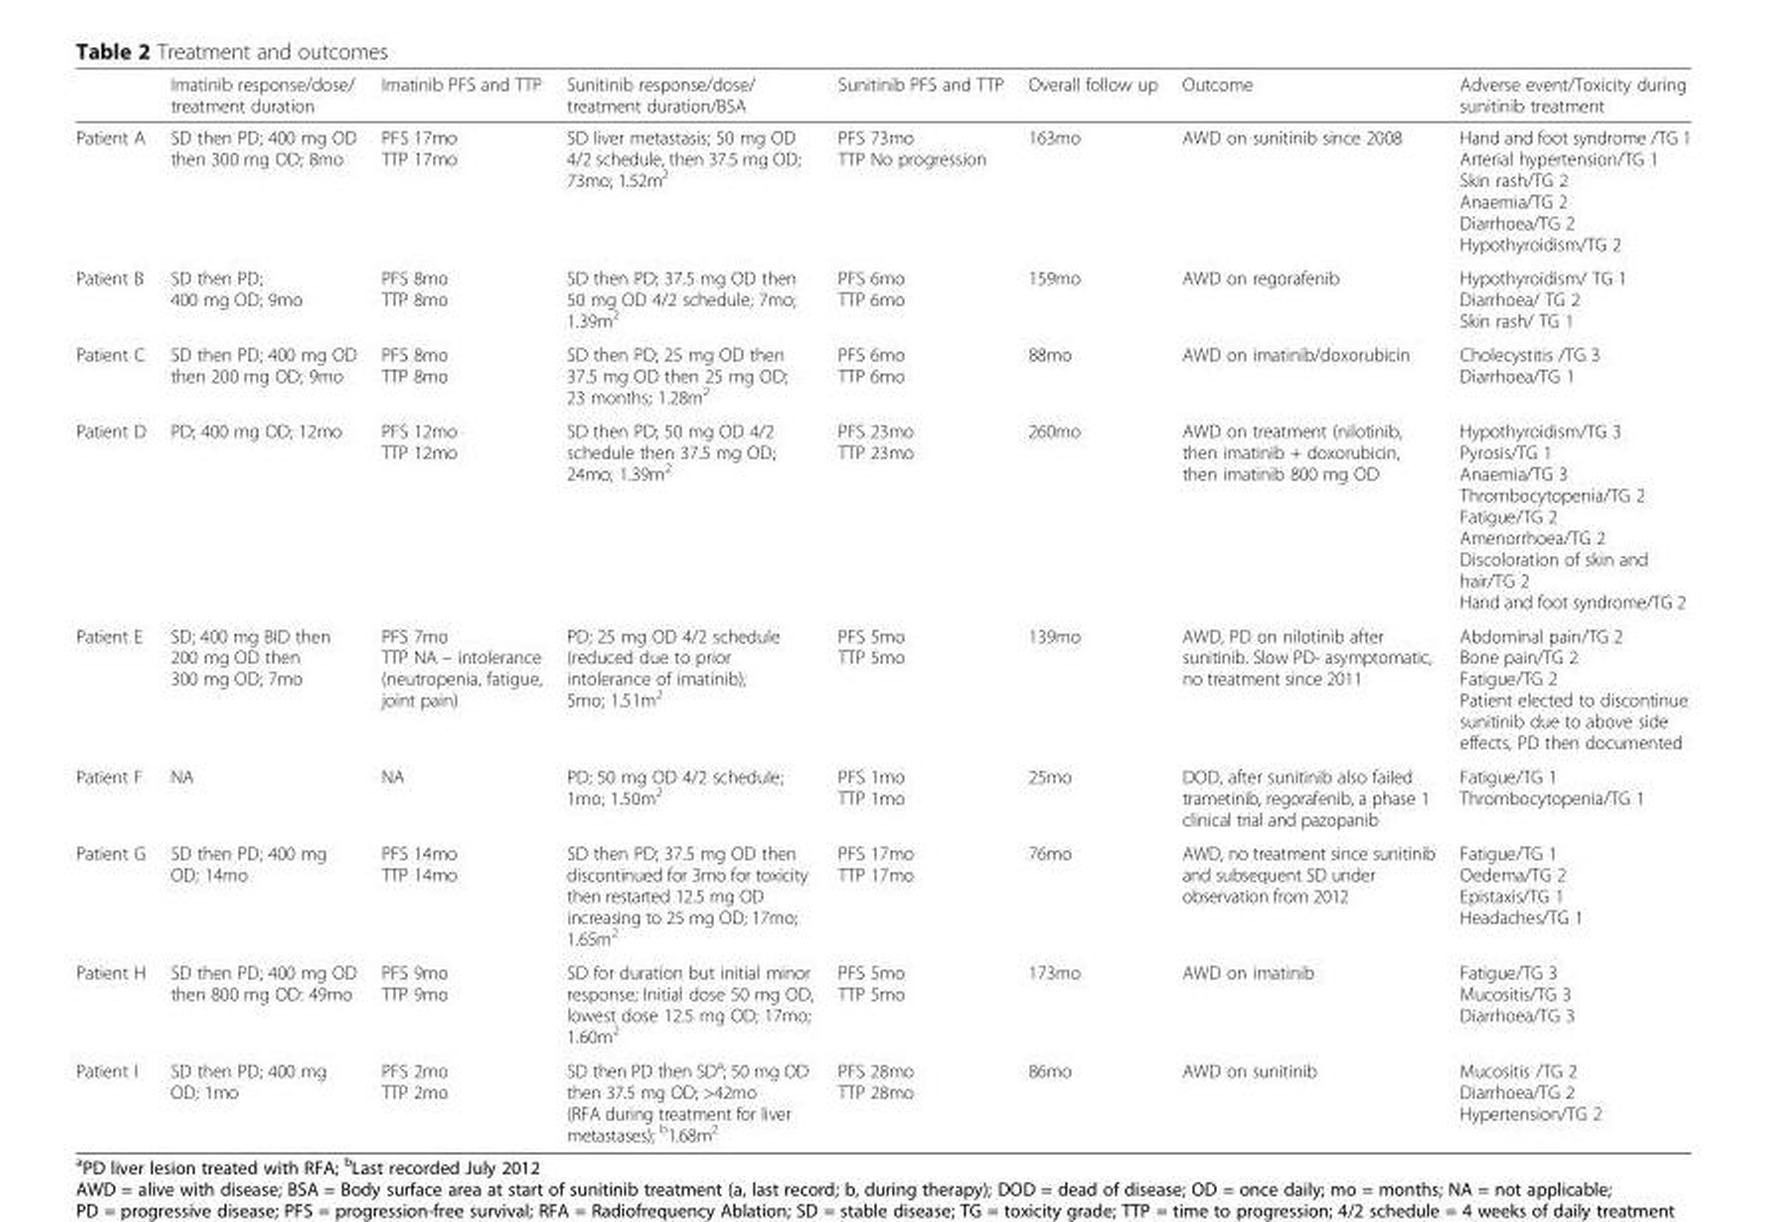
<table><thead><tr><td></td><td>Imatinib response/dose/ treatment duration</td><td>Imatinib PFS and TTP</td><td>Sunitinib response/dose/ treatment duration/BSA</td><td>Sunitinib PFS and TTP</td><td>Overall follow up</td><td>Outcome</td><td>Adverse event/Toxicity during sunitinib treatment</td></tr></thead><tbody><tr><td>Patient A</td><td>SD then PD; 400 mg OD then 300 mg OD; 8mo</td><td>PFS 17mo TTP 17mo</td><td>SD liver metastasis; 50 mg OD 4/2 schedule, then 37.5 mg OD; 73mo; 1.52m<sup>2</sup></td><td>PFS 73mo TTP No progression</td><td>163mo</td><td>AWD on sunitinib since 2008</td><td>Hand and foot syndrome /TG 1 Arterial hypertension/TG 1 Skin rash/TG 2 Anaemia/TG 2 Diarrhoea/TG 2 Hypothyroidism/TG 2</td></tr><tr><td>Patient B</td><td>SD then PD; 400 mg OD; 9mo</td><td>PFS 8mo TTP 8mo</td><td>SD then PD; 37.5 mg OD then 50 mg OD 4/2 schedule; 7mo; 1.39m<sup>2</sup></td><td>PFS 6mo TTP 6mo</td><td>159mo</td><td>AWD on regorafenib</td><td>Hypothyroidism/ TG 1 Diarrhoea/ TG 2 Skin rash/ TG 1</td></tr><tr><td>Patient C</td><td>SD then PD; 400 mg OD then 200 mg OD; 9mo</td><td>PFS 8mo TTP 8mo</td><td>SD then PD; 25 mg OD then 37.5 mg OD then 25 mg OD; 23 months; 1.28m<sup>2</sup></td><td>PFS 6mo TTP 6mo</td><td>88mo</td><td>AWD on imatinib/doxorubicin</td><td>Cholecystitis /TG 3 Diarrhoea/TG 1</td></tr><tr><td>Patient D</td><td>PD; 400 mg OD; 12mo</td><td>PFS 12mo TTP 12mo</td><td>SD then PD; 50 mg OD 4/2 schedule then 37.5 mg OD; 24mo; 1.39m<sup>2</sup></td><td>PFS 23mo TTP 23mo</td><td>260mo</td><td>AWD on treatment (nilotinib, then imatinib + doxorubicin, then imatinib 800 mg OD</td><td>Hypothyroidism/TG 3 Pyrosis/TG 1 Anaemia/TG 3 Thrombocytopenia/TG 2 Fatigue/TG 2 Amenorrhoea/TG 2 Discoloration of skin and hair/TG 2 Hand and foot syndrome/TG 2</td></tr><tr><td>Patient E</td><td>SD; 400 mg BID then 200 mg OD then 300 mg OD; 7mo</td><td>PFS 7mo TTP NA – intolerance (neutropenia, fatigue, joint pain)</td><td>PD; 25 mg OD 4/2 schedule (reduced due to prior intolerance of imatinib); 5mo; 1.51m<sup>2</sup></td><td>PFS 5mo TTP 5mo</td><td>139mo</td><td>AWD, PD on nilotinib after sunitinib. Slow PD- asymptomatic, no treatment since 2011</td><td>Abdominal pain/TG 2 Bone pain/TG 2 Fatigue/TG 2 Patient elected to discontinue sunitinib due to above side effects, PD then documented</td></tr><tr><td>Patient F</td><td>NA</td><td>NA</td><td>PD; 50 mg OD 4/2 schedule; 1mo; 1.50m<sup>2</sup></td><td>PFS 1mo TTP 1mo</td><td>25mo</td><td>DOD, after sunitinib also failed trametinib, regorafenib, a phase 1 clinical trial and pazopanib</td><td>Fatigue/TG 1 Thrombocytopenia/TG 1</td></tr><tr><td>Patient G</td><td>SD then PD; 400 mg OD; 14mo</td><td>PFS 14mo TTP 14mo</td><td>SD then PD; 37.5 mg OD then discontinued for 3mo for toxicity then restarted 12.5 mg OD increasing to 25 mg OD; 17mo; 1.65m<sup>2</sup></td><td>PFS 17mo TTP 17mo</td><td>76mo</td><td>AWD, no treatment since sunitinib and subsequent SD under observation from 2012</td><td>Fatigue/TG 1 Oedema/TG 2 Epistaxis/TG 1 Headaches/TG 1</td></tr><tr><td>Patient H</td><td>SD then PD; 400 mg OD then 800 mg OD: 49mo</td><td>PFS 9mo TTP 9mo</td><td>SD for duration but initial minor response; Initial dose 50 mg OD, lowest dose 12.5 mg OD; 17mo; 1.60m<sup>2</sup></td><td>PFS 5mo TTP 5mo</td><td>173mo</td><td>AWD on imatinib</td><td>Fatigue/TG 3 Mucositis/TG 3 Diarrhoea/TG 3</td></tr><tr><td>Patient I</td><td>SD then PD; 400 mg OD; 1mo</td><td>PFS 2mo TTP 2mo</td><td>SD then PD then SD<sup>a</sup>; 50 mg OD then 37.5 mg OD; &gt;42mo (RFA during treatment for liver metastases); <sup>b</sup>1.68m<sup>2</sup></td><td>PFS 28mo TTP 28mo</td><td>86mo</td><td>AWD on sunitinib</td><td>Mucositis /TG 2 Diarrhoea/TG 2 Hypertension/TG 2</td></tr></tbody></table>